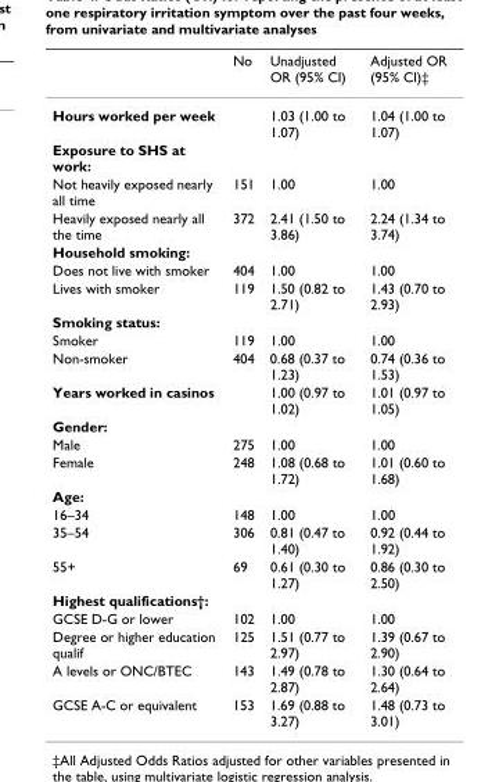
<table><thead><tr><td></td><td>No</td><td>Unadjusted OR (95% CI)</td><td>Adjusted OR (95% CI)‡</td></tr></thead><tbody><tr><td>Hours worked per week</td><td></td><td>1.03 (1.00 to 1.07)</td><td>1.04 (1.00 to 1.07)</td></tr><tr><td colspan="4">Exposure to SHS at work:</td></tr><tr><td>Not heavily exposed nearly all time</td><td>151</td><td>1.00</td><td>1.00</td></tr><tr><td>Heavily exposed nearly all the time</td><td>372</td><td>2.41 (1.50 to 3.86)</td><td>2.24 (1.34 to 3.74)</td></tr><tr><td colspan="4">Household smoking:</td></tr><tr><td>Does not live with smoker</td><td>404</td><td>1.00</td><td>1.00</td></tr><tr><td>Lives with smoker</td><td>119</td><td>1.50 (0.82 to 2.71)</td><td>1.43 (0.70 to 2.93)</td></tr><tr><td colspan="4">Smoking status:</td></tr><tr><td>Smoker</td><td>119</td><td>1.00</td><td>1.00</td></tr><tr><td>Non-smoker</td><td>404</td><td>0.68 (0.37 to 1.23)</td><td>0.74 (0.36 to 1.53)</td></tr><tr><td>Years worked in casinos</td><td></td><td>1.00 (0.97 to 1.02)</td><td>1.01 (0.97 to 1.05)</td></tr><tr><td colspan="4">Gender:</td></tr><tr><td>Male</td><td>275</td><td>1.00</td><td>1.00</td></tr><tr><td>Female</td><td>248</td><td>1.08 (0.68 to 1.72)</td><td>1.01 (0.60 to 1.68)</td></tr><tr><td colspan="4">Age:</td></tr><tr><td>16–34</td><td>148</td><td>1.00</td><td>1.00</td></tr><tr><td>35–54</td><td>306</td><td>0.81 (0.47 to 1.40)</td><td>0.92 (0.44 to 1.92)</td></tr><tr><td>55+</td><td>69</td><td>0.61 (0.30 to 1.27)</td><td>0.86 (0.30 to 2.50)</td></tr><tr><td colspan="4">Highest qualifications†:</td></tr><tr><td>GCSE D-G or lower</td><td>102</td><td>1.00</td><td>1.00</td></tr><tr><td>Degree or higher education qualif</td><td>125</td><td>1.51 (0.77 to 2.97)</td><td>1.39 (0.67 to 2.90)</td></tr><tr><td>A levels or ONC/BTEC</td><td>143</td><td>1.49 (0.78 to 2.87)</td><td>1.30 (0.64 to 2.64)</td></tr><tr><td>GCSE A-C or equivalent</td><td>153</td><td>1.69 (0.88 to 3.27)</td><td>1.48 (0.73 to 3.01)</td></tr></tbody></table>